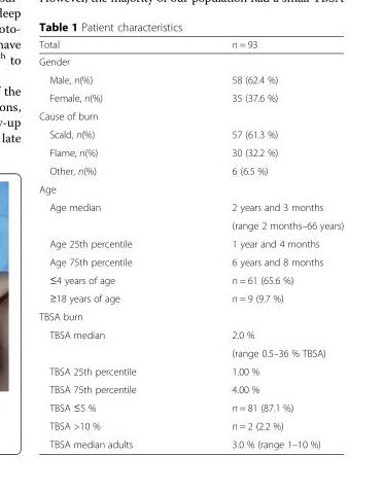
<table><thead><tr><td>Total</td><td>n = 93</td></tr></thead><tbody><tr><td colspan="2">Gender</td></tr><tr><td>Male, n(%)</td><td>58 (62.4 %)</td></tr><tr><td>Female, n(%)</td><td>35 (37.6 %)</td></tr><tr><td colspan="2">Cause of burn</td></tr><tr><td>Scald, n(%)</td><td>57 (61.3 %)</td></tr><tr><td>Flame, n(%)</td><td>30 (32.2 %)</td></tr><tr><td>Other, n(%)</td><td>6 (6.5 %)</td></tr><tr><td colspan="2">Age</td></tr><tr><td rowspan="2">Age median</td><td>2 years and 3 months</td></tr><tr><td>(range 2 months–66 years)</td></tr><tr><td>Age 25th percentile</td><td>1 year and 4 months</td></tr><tr><td>Age 75th percentile</td><td>6 years and 8 months</td></tr><tr><td>≤4 years of age</td><td>n = 61 (65.6 %)</td></tr><tr><td>≥18 years of age</td><td>n = 9 (9.7 %)</td></tr><tr><td colspan="2">TBSA burn</td></tr><tr><td rowspan="2">TBSA median</td><td>2.0 %</td></tr><tr><td>(range 0.5–36 % TBSA)</td></tr><tr><td>TBSA 25th percentile</td><td>1.00 %</td></tr><tr><td>TBSA 75th percentile</td><td>4.00 %</td></tr><tr><td>TBSA ≤5 %</td><td>n = 81 (87.1 %)</td></tr><tr><td>TBSA &gt;10 %</td><td>n = 2 (2.2 %)</td></tr><tr><td>TBSA median adults</td><td>3.0 % (range 1–10 %)</td></tr></tbody></table>